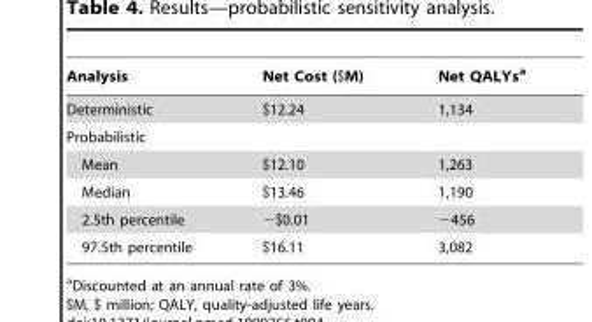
<table><thead><tr><td>Analysis</td><td>Net Cost ($M)</td><td>Net QALYs<sup>a</sup></td></tr></thead><tbody><tr><td>Deterministic</td><td>$12.24</td><td>1,134</td></tr><tr><td colspan="3">Probabilistic</td></tr><tr><td>Mean</td><td>$12.10</td><td>1,263</td></tr><tr><td>Median</td><td>$13.46</td><td>1,190</td></tr><tr><td>2.5th percentile</td><td>−$0.01</td><td>−456</td></tr><tr><td>97.5th percentile</td><td>$16.11</td><td>3,082</td></tr></tbody></table>